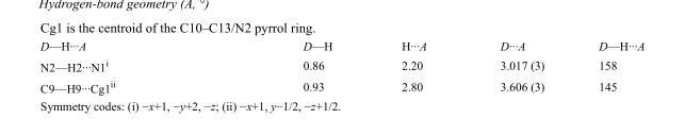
<table><tbody><tr><td>D—H···A</td><td>D—H</td><td>H···A</td><td>D···A</td><td>D—H···A</td></tr><tr><td>N2—H2···N1<sup>i</sup></td><td>0.86</td><td>2.20</td><td>3.017 (3)</td><td>158</td></tr><tr><td>C9—H9···Cg1<sup>ii</sup></td><td>0.93</td><td>2.80</td><td>3.606 (3)</td><td>145</td></tr></tbody></table>